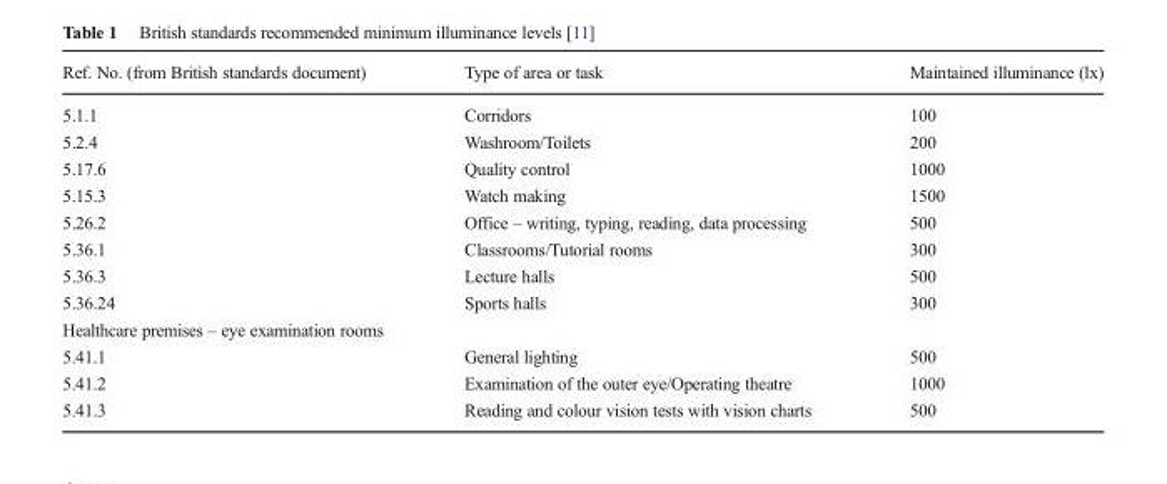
<table><thead><tr><td>Ref. No. (from British standards document)</td><td>Type of area or task</td><td>Maintained illuminance (lx)</td></tr></thead><tbody><tr><td>5.1.1</td><td>Corridors</td><td>100</td></tr><tr><td>5.2.4</td><td>Washroom/Toilets</td><td>200</td></tr><tr><td>5.17.6</td><td>Quality control</td><td>1000</td></tr><tr><td>5.15.3</td><td>Watch making</td><td>1500</td></tr><tr><td>5.26.2</td><td>Office – writing, typing, reading, data processing</td><td>500</td></tr><tr><td>5.36.1</td><td>Classrooms/Tutorial rooms</td><td>300</td></tr><tr><td>5.36.3</td><td>Lecture halls</td><td>500</td></tr><tr><td>5.36.24</td><td>Sports halls</td><td>300</td></tr><tr><td colspan="3">Healthcare premises – eye examination rooms</td></tr><tr><td>5.41.1</td><td>General lighting</td><td>500</td></tr><tr><td>5.41.2</td><td>Examination of the outer eye/Operating theatre</td><td>1000</td></tr><tr><td>5.41.3</td><td>Reading and colour vision tests with vision charts</td><td>500</td></tr></tbody></table>